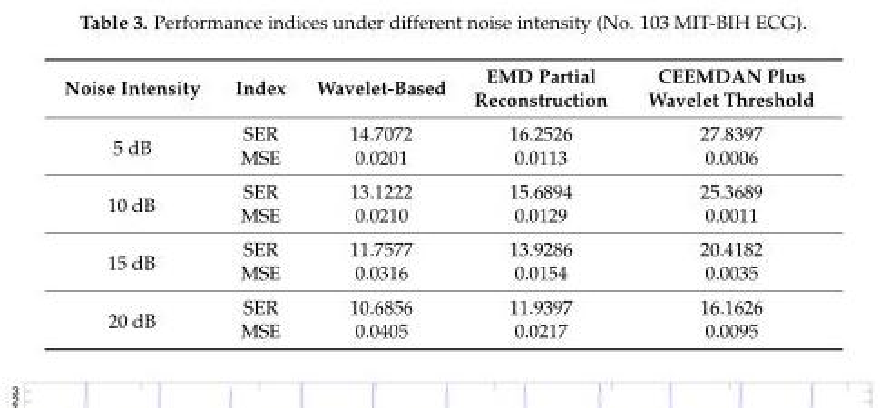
<table><thead><tr><td>Noise Intensity</td><td>Index</td><td>Wavelet-Based</td><td>EMD Partial Reconstruction</td><td>CEEMDAN Plus Wavelet Threshold</td></tr></thead><tbody><tr><td rowspan="2">5 dB</td><td>SER</td><td>14.7072</td><td>16.2526</td><td>27.8397</td></tr><tr><td>MSE</td><td>0.0201</td><td>0.0113</td><td>0.0006</td></tr><tr><td rowspan="2">10 dB</td><td>SER</td><td>13.1222</td><td>15.6894</td><td>25.3689</td></tr><tr><td>MSE</td><td>0.0210</td><td>0.0129</td><td>0.0011</td></tr><tr><td rowspan="2">15 dB</td><td>SER</td><td>11.7577</td><td>13.9286</td><td>20.4182</td></tr><tr><td>MSE</td><td>0.0316</td><td>0.0154</td><td>0.0035</td></tr><tr><td rowspan="2">20 dB</td><td>SER</td><td>10.6856</td><td>11.9397</td><td>16.1626</td></tr><tr><td>MSE</td><td>0.0405</td><td>0.0217</td><td>0.0095</td></tr></tbody></table>